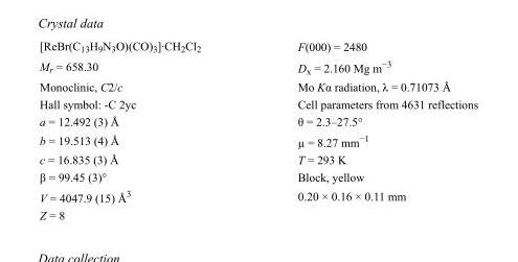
<table><tbody><tr><td>[ReBr(C<sub>13</sub>H<sub>9</sub>N<sub>3</sub>O)(CO)<sub>3</sub>]·CH<sub>2</sub>Cl<sub>2</sub></td><td>F(000) = 2480</td></tr><tr><td>M<sub>r</sub> = 658.30</td><td>D<sub>x</sub> = 2.160 Mg m<sup>−3</sup></td></tr><tr><td>Monoclinic, C2/c</td><td>Mo Kα radiation, λ = 0.71073 Å</td></tr><tr><td>Hall symbol: -C 2yc</td><td>Cell parameters from 4631 reflections</td></tr><tr><td>a = 12.492 (3) Å</td><td>θ = 2.3–27.5°</td></tr><tr><td>b = 19.513 (4) Å</td><td>µ = 8.27 mm<sup>−1</sup></td></tr><tr><td>c = 16.835 (3) Å</td><td>T = 293 K</td></tr><tr><td>β = 99.45 (3)°</td><td>Block, yellow</td></tr><tr><td>V = 4047.9 (15) Å<sup>3</sup></td><td>0.20 × 0.16 × 0.11 mm</td></tr><tr><td>Z = 8</td><td></td></tr></tbody></table>